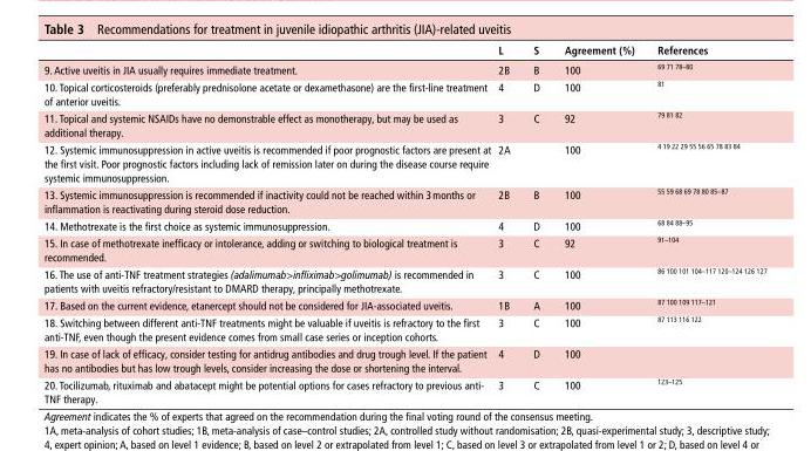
<table><thead><tr><td></td><td>L</td><td>s</td><td>Agreement (%)</td><td>references</td></tr></thead><tbody><tr><td>9. Active uveitis in JIA usually requires immediate treatment.</td><td>2B</td><td>B</td><td>100</td><td>69 71 78–80</td></tr><tr><td>10. Topical corticosteroids (preferably prednisolone acetate or dexamethasone) are the first-line treatment of anterior uveitis.</td><td>4</td><td>D</td><td>100</td><td>81</td></tr><tr><td>11. Topical and systemic NSAIDs have no demonstrable effect as monotherapy, but may be used as additional therapy.</td><td>3</td><td>C</td><td>92</td><td>79 81 82</td></tr><tr><td>12. Systemic immunosuppression in active uveitis is recommended if poor prognostic factors are present at the first visit. Poor prognostic factors including lack of remission later on during the disease course require systemic immunosuppression.</td><td>2A</td><td></td><td>100</td><td>4 19 22 29 55 56 65 78 83 84</td></tr><tr><td>13. Systemic immunosuppression is recommended if inactivity could not be reached within 3 months or inflammation is reactivating during steroid dose reduction.</td><td>2B</td><td>B</td><td>100</td><td>55 59 68 69 78 80 85–87</td></tr><tr><td>14. Methotrexate is the first choice as systemic immunosuppression.</td><td>4</td><td>D</td><td>100</td><td>68 84 88–95</td></tr><tr><td>15. In case of methotrexate inefficacy or intolerance, adding or switching to biological treatment is recommended.</td><td>3</td><td>C</td><td>92</td><td>91–104</td></tr><tr><td>16. The use of anti-TNF treatment strategies (adalimumab&gt;infliximab&gt;golimumab) is recommended in patients with uveitis refractory/resistant to DMARD therapy, principally methotrexate.</td><td>3</td><td>C</td><td>100</td><td>86 100 101 104–117 120–124 126 127</td></tr><tr><td>17. Based on the current evidence, etanercept should not be considered for JIA-associated uveitis.</td><td>1B</td><td>A</td><td>100</td><td>87 100 109 117–121</td></tr><tr><td>18. Switching between different anti-TNF treatments might be valuable if uveitis is refractory to the first anti-TNF, even though the present evidence comes from small case series or inception cohorts.</td><td>3</td><td>C</td><td>100</td><td>87 113 116 122</td></tr><tr><td>19. In case of lack of efficacy, consider testing for antidrug antibodies and drug trough level. If the patient has no antibodies but has low trough levels, consider increasing the dose or shortening the interval.</td><td>4</td><td>D</td><td>100</td><td></td></tr><tr><td>20. Tocilizumab, rituximab and abatacept might be potential options for cases refractory to previous anti- TNF therapy.</td><td>3</td><td>C</td><td>100</td><td>123–125</td></tr></tbody></table>